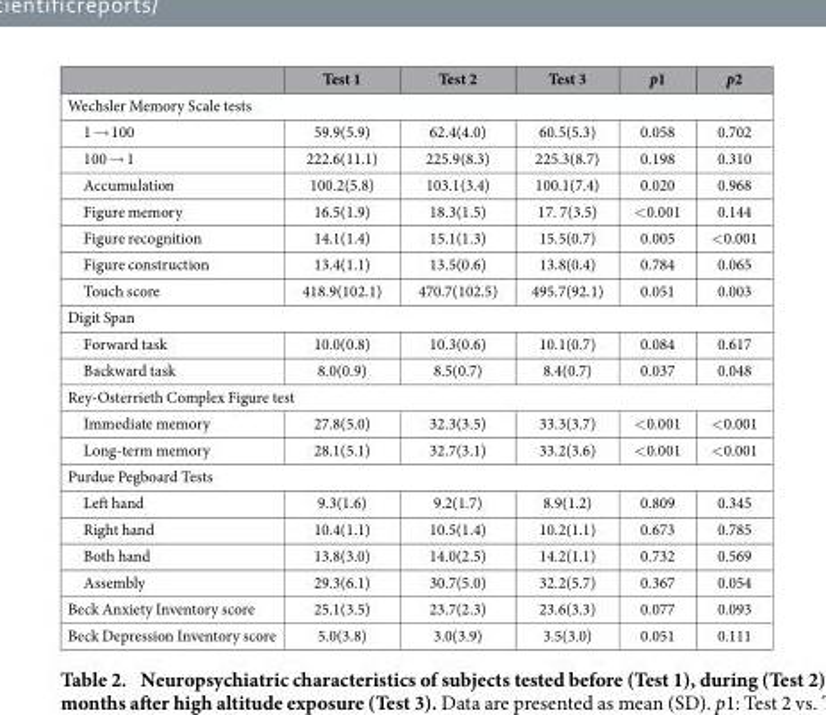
<table><thead><tr><td></td><td>Test 1</td><td>Test 2</td><td>Test 3</td><td>p1</td><td>p2</td></tr></thead><tbody><tr><td colspan="6">Wechsler Memory Scale tests</td></tr><tr><td>1 → 100</td><td>59.9(5.9)</td><td>62.4(4.0)</td><td>60.5(5.3)</td><td>0.058</td><td>0.702</td></tr><tr><td>100 → 1</td><td>222.6(11.1)</td><td>225.9(8.3)</td><td>225.3(8.7)</td><td>0.198</td><td>0.310</td></tr><tr><td>Accumulation</td><td>100.2(5.8)</td><td>103.1(3.4)</td><td>100.1(7.4)</td><td>0.020</td><td>0.968</td></tr><tr><td>Figure memory</td><td>16.5(1.9)</td><td>18.3(1.5)</td><td>17. 7(3.5)</td><td>&lt; 0.001</td><td>0.144</td></tr><tr><td>Figure recognition</td><td>14.1(1.4)</td><td>15.1(1.3)</td><td>15.5(0.7)</td><td>0.005</td><td>&lt; 0.001</td></tr><tr><td>Figure construction</td><td>13.4(1.1)</td><td>13.5(0.6)</td><td>13.8(0.4)</td><td>0.784</td><td>0.065</td></tr><tr><td>Touch score</td><td>418.9(102.1)</td><td>470.7(102.5)</td><td>495.7(92.1)</td><td>0.051</td><td>0.003</td></tr><tr><td colspan="6">Digit Span</td></tr><tr><td>Forward task</td><td>10.0(0.8)</td><td>10.3(0.6)</td><td>10.1(0.7)</td><td>0.084</td><td>0.617</td></tr><tr><td>Backward task</td><td>8.0(0.9)</td><td>8.5(0.7)</td><td>8.4(0.7)</td><td>0.037</td><td>0.048</td></tr><tr><td colspan="6">Rey-Osterrieth Complex Figure test</td></tr><tr><td>Immediate memory</td><td>27.8(5.0)</td><td>32.3(3.5)</td><td>33.3(3.7)</td><td>&lt; 0.001</td><td>&lt; 0.001</td></tr><tr><td>Long-term memory</td><td>28.1(5.1)</td><td>32.7(3.1)</td><td>33.2(3.6)</td><td>&lt; 0.001</td><td>&lt; 0.001</td></tr><tr><td colspan="6">Purdue Pegboard Tests</td></tr><tr><td>Left hand</td><td>9.3(1.6)</td><td>9.2(1.7)</td><td>8.9(1.2)</td><td>0.809</td><td>0.345</td></tr><tr><td>Right hand</td><td>10.4(1.1)</td><td>10.5(1.4)</td><td>10.2(1.1)</td><td>0.673</td><td>0.785</td></tr><tr><td>Both hand</td><td>13.8(3.0)</td><td>14.0(2.5)</td><td>14.2(1.1)</td><td>0.732</td><td>0.569</td></tr><tr><td>Assembly</td><td>29.3(6.1)</td><td>30.7(5.0)</td><td>32.2(5.7)</td><td>0.367</td><td>0.054</td></tr><tr><td>Beck Anxiety Inventory score</td><td>25.1(3.5)</td><td>23.7(2.3)</td><td>23.6(3.3)</td><td>0.077</td><td>0.093</td></tr><tr><td>Beck Depression Inventory score</td><td>5.0(3.8)</td><td>3.0(3.9)</td><td>3.5(3.0)</td><td>0.051</td><td>0.111</td></tr></tbody></table>